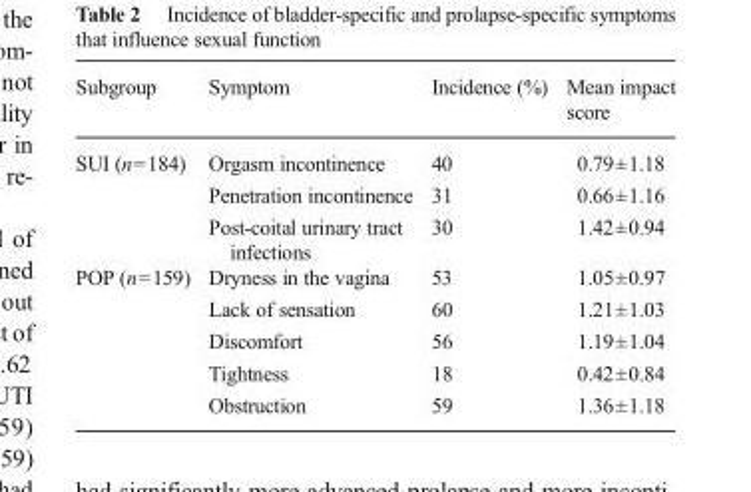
<table><thead><tr><td>Subgroup</td><td>Symptom</td><td>Incidence (%)</td><td>Mean impact score</td></tr></thead><tbody><tr><td rowspan="3">SUI (n=184)</td><td>Orgasm incontinence</td><td>40</td><td>0.79±1.18</td></tr><tr><td>Penetration incontinence</td><td>31</td><td>0.66±1.16</td></tr><tr><td>Post-coital urinary tract infections</td><td>30</td><td>1.42±0.94</td></tr><tr><td rowspan="5">POP (n=159)</td><td>Dryness in the vagina</td><td>53</td><td>1.05±0.97</td></tr><tr><td>Lack of sensation</td><td>60</td><td>1.21±1.03</td></tr><tr><td>Discomfort</td><td>56</td><td>1.19±1.04</td></tr><tr><td>Tightness</td><td>18</td><td>0.42±0.84</td></tr><tr><td>Obstruction</td><td>59</td><td>1.36±1.18</td></tr></tbody></table>